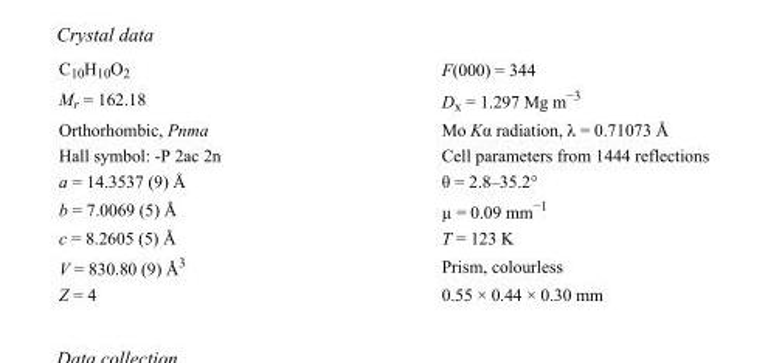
<table><tbody><tr><td>C<sub>10</sub>H<sub>10</sub>O<sub>2</sub></td><td>F(000) = 344</td></tr><tr><td>M<sub>r</sub> = 162.18</td><td>D<sub>x</sub> = 1.297 Mg m<sup>−3</sup></td></tr><tr><td>Orthorhombic, Pnma</td><td>Mo Kα radiation, λ = 0.71073 Å</td></tr><tr><td>Hall symbol: -P 2ac 2n</td><td>Cell parameters from 1444 reflections</td></tr><tr><td>a = 14.3537 (9) Å</td><td>θ = 2.8–35.2°</td></tr><tr><td>b = 7.0069 (5) Å</td><td>µ = 0.09 mm<sup>−1</sup></td></tr><tr><td>c = 8.2605 (5) Å</td><td>T = 123 K</td></tr><tr><td>V = 830.80 (9) Å<sup>3</sup></td><td>Prism, colourless</td></tr><tr><td>Z = 4</td><td>0.55 × 0.44 × 0.30 mm</td></tr></tbody></table>